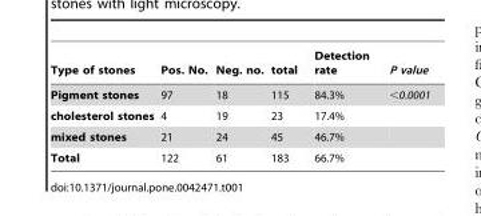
<table><thead><tr><td>Type of stones</td><td>Pos. No.</td><td>Neg. no.</td><td>total</td><td>Detection rate</td><td>P value</td></tr></thead><tbody><tr><td>Pigment stones</td><td>97</td><td>18</td><td>115</td><td>84.3%</td><td>&lt;0.0001</td></tr><tr><td>cholesterol stones</td><td>4</td><td>19</td><td>23</td><td>17.4%</td><td></td></tr><tr><td>mixed stones</td><td>21</td><td>24</td><td>45</td><td>46.7%</td><td></td></tr><tr><td>Total</td><td>122</td><td>61</td><td>183</td><td>66.7%</td><td></td></tr></tbody></table>